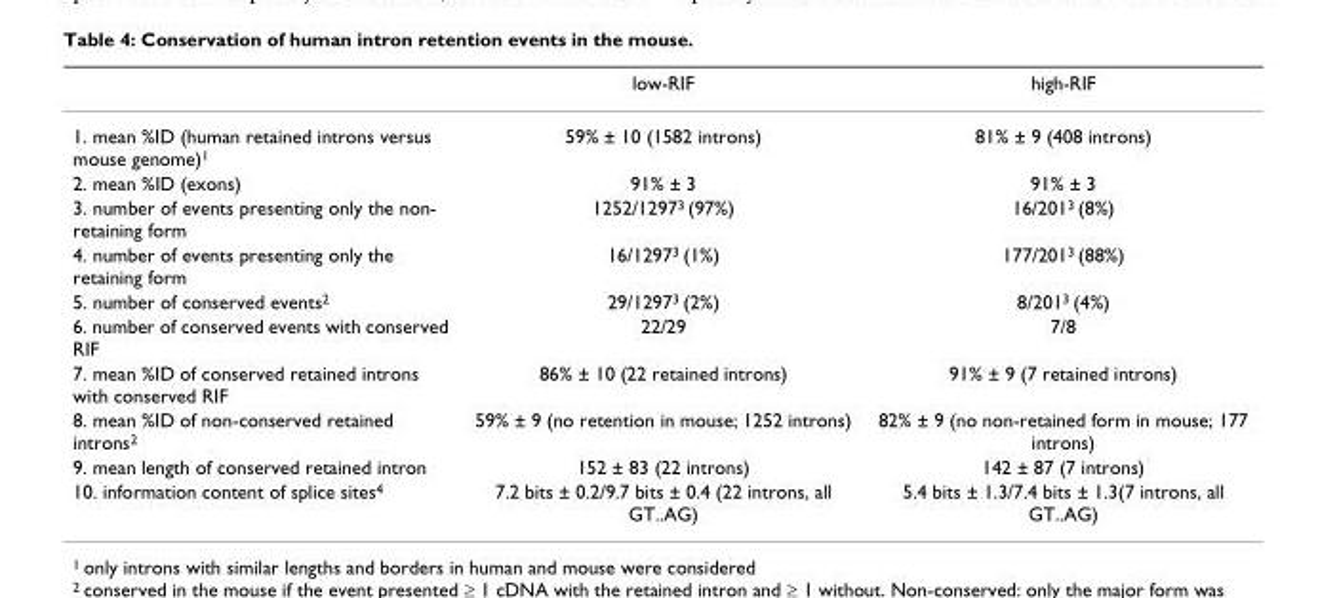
<table><thead><tr><td></td><td>low-RIF</td><td>high-RIF</td></tr></thead><tbody><tr><td>1. mean %ID (human retained introns versus mouse genome)<sup>1</sup></td><td>59% ± 10 (1582 introns)</td><td>81% ± 9 (408 introns)</td></tr><tr><td>2. mean %ID (exons)</td><td>91% ± 3</td><td>91% ± 3</td></tr><tr><td>3. number of events presenting only the non- retaining form</td><td>1252/1297<sup>3</sup> (97%)</td><td>16/201<sup>3</sup> (8%)</td></tr><tr><td>4. number of events presenting only the retaining form</td><td>16/1297<sup>3</sup> (1%)</td><td>177/201<sup>3</sup> (88%)</td></tr><tr><td>5. number of conserved events<sup>2</sup></td><td>29/1297<sup>3</sup> (2%)</td><td>8/201<sup>3</sup> (4%)</td></tr><tr><td>6. number of conserved events with conserved RIF</td><td>22/29</td><td>7/8</td></tr><tr><td>7. mean %ID of conserved retained introns with conserved RIF</td><td>86% ± 10 (22 retained introns)</td><td>91% ± 9 (7 retained introns)</td></tr><tr><td>8. mean %ID of non-conserved retained introns<sup>2</sup></td><td>59% ± 9 (no retention in mouse; 1252 introns)</td><td>82% ± 9 (no non-retained form in mouse; 177 introns)</td></tr><tr><td>9. mean length of conserved retained intron</td><td>152 ± 83 (22 introns)</td><td>142 ± 87 (7 introns)</td></tr><tr><td>10. information content of splice sites<sup>4</sup></td><td>7.2 bits ± 0.2/9.7 bits ± 0.4 (22 introns, all GT..AG)</td><td>5.4 bits ± 1.3/7.4 bits ± 1.3(7 introns, all GT..AG)</td></tr></tbody></table>